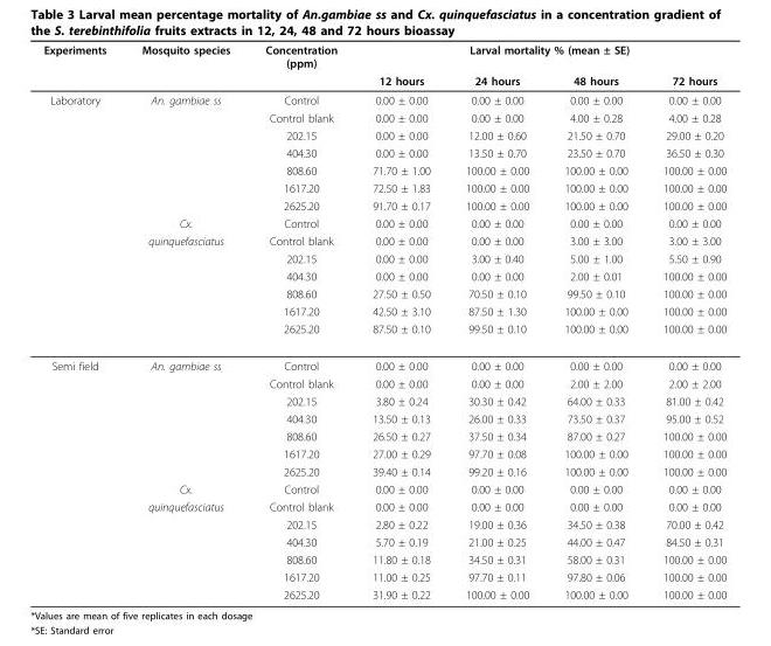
<table><thead><tr><td rowspan="2">Experiments</td><td rowspan="2">Mosquito species</td><td rowspan="2">Concentration (ppm)</td><td colspan="4">Larval mortality % (mean ± SE)</td></tr><tr><td>12 hours</td><td>24 hours</td><td>48 hours</td><td>72 hours</td></tr></thead><tbody><tr><td rowspan="14">Laboratory</td><td>An. gambiae ss</td><td>Control</td><td>0.00 ± 0.00</td><td>0.00 ± 0.00</td><td>0.00 ± 0.00</td><td>0.00 ± 0.00</td></tr><tr><td></td><td>Control blank</td><td>0.00 ± 0.00</td><td>0.00 ± 0.00</td><td>4.00 ± 0.28</td><td>4.00 ± 0.28</td></tr><tr><td></td><td>202.15</td><td>0.00 ± 0.00</td><td>12.00 ± 0.60</td><td>21.50 ± 0.70</td><td>29.00 ± 0.20</td></tr><tr><td></td><td>404.30</td><td>0.00 ± 0.00</td><td>13.50 ± 0.70</td><td>23.50 ± 0.70</td><td>36.50 ± 0.30</td></tr><tr><td></td><td>808.60</td><td>71.70 ± 1.00</td><td>100.00 ± 0.00</td><td>100.00 ± 0.00</td><td>100.00 ± 0.00</td></tr><tr><td></td><td>1617.20</td><td>72.50 ± 1.83</td><td>100.00 ± 0.00</td><td>100.00 ± 0.00</td><td>100.00 ± 0.00</td></tr><tr><td></td><td>2625.20</td><td>91.70 ± 0.17</td><td>100.00 ± 0.00</td><td>100.00 ± 0.00</td><td>100.00 ± 0.00</td></tr><tr><td>Cx.</td><td>Control</td><td>0.00 ± 0.00</td><td>0.00 ± 0.00</td><td>0.00 ± 0.00</td><td>0.00 ± 0.00</td></tr><tr><td>quinquefasciatus</td><td>Control blank</td><td>0.00 ± 0.00</td><td>0.00 ± 0.00</td><td>3.00 ± 3.00</td><td>3.00 ± 3.00</td></tr><tr><td></td><td>202.15</td><td>0.00 ± 0.00</td><td>3.00 ± 0.40</td><td>5.00 ± 1.00</td><td>5.50 ± 0.90</td></tr><tr><td></td><td>404.30</td><td>0.00 ± 0.00</td><td>0.00 ± 0.00</td><td>2.00 ± 0.01</td><td>100.00 ± 0.00</td></tr><tr><td></td><td>808.60</td><td>27.50 ± 0.50</td><td>70.50 ± 0.10</td><td>99.50 ± 0.10</td><td>100.00 ± 0.00</td></tr><tr><td></td><td>1617.20</td><td>42.50 ± 3.10</td><td>87.50 ± 1.30</td><td>100.00 ± 0.00</td><td>100.00 ± 0.00</td></tr><tr><td></td><td>2625.20</td><td>87.50 ± 0.10</td><td>99.50 ± 0.10</td><td>100.00 ± 0.00</td><td>100.00 ± 0.00</td></tr><tr><td rowspan="14">Semi field</td><td>An. gambiae ss</td><td>Control</td><td>0.00 ± 0.00</td><td>0.00 ± 0.00</td><td>0.00 ± 0.00</td><td>0.00 ± 0.00</td></tr><tr><td></td><td>Control blank</td><td>0.00 ± 0.00</td><td>0.00 ± 0.00</td><td>2.00 ± 2.00</td><td>2.00 ± 2.00</td></tr><tr><td></td><td>202.15</td><td>3.80 ± 0.24</td><td>30.30 ± 0.42</td><td>64.00 ± 0.33</td><td>81.00 ± 0.42</td></tr><tr><td></td><td>404.30</td><td>13.50 ± 0.13</td><td>26.00 ± 0.33</td><td>73.50 ± 0.37</td><td>95.00 ± 0.52</td></tr><tr><td></td><td>808.60</td><td>26.50 ± 0.27</td><td>37.50 ± 0.34</td><td>87.00 ± 0.27</td><td>100.00 ± 0.00</td></tr><tr><td></td><td>1617.20</td><td>27.00 ± 0.29</td><td>97.70 ± 0.08</td><td>100.00 ± 0.00</td><td>100.00 ± 0.00</td></tr><tr><td></td><td>2625.20</td><td>39.40 ± 0.14</td><td>99.20 ± 0.16</td><td>100.00 ± 0.00</td><td>100.00 ± 0.00</td></tr><tr><td>Cx.</td><td>Control</td><td>0.00 ± 0.00</td><td>0.00 ± 0.00</td><td>0.00 ± 0.00</td><td>0.00 ± 0.00</td></tr><tr><td>quinquefasciatus</td><td>Control blank</td><td>0.00 ± 0.00</td><td>0.00 ± 0.00</td><td>0.00 ± 0.00</td><td>0.00 ± 0.00</td></tr><tr><td></td><td>202.15</td><td>2.80 ± 0.22</td><td>19.00 ± 0.36</td><td>34.50 ± 0.38</td><td>70.00 ± 0.42</td></tr><tr><td></td><td>404.30</td><td>5.70 ± 0.19</td><td>21.00 ± 0.25</td><td>44.00 ± 0.47</td><td>84.50 ± 0.31</td></tr><tr><td></td><td>808.60</td><td>11.80 ± 0.18</td><td>34.50 ± 0.31</td><td>58.00 ± 0.31</td><td>100.00 ± 0.00</td></tr><tr><td></td><td>1617.20</td><td>11.00 ± 0.25</td><td>97.70 ± 0.11</td><td>97.80 ± 0.06</td><td>100.00 ± 0.00</td></tr><tr><td></td><td>2625.20</td><td>31.90 ± 0.22</td><td>100.00 ± 0.00</td><td>100.00 ± 0.00</td><td>100.00 ± 0.00</td></tr></tbody></table>